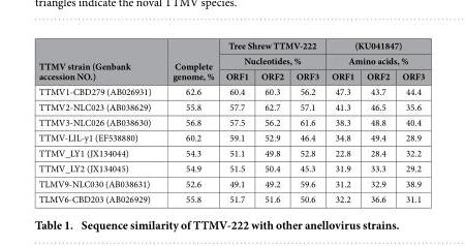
<table><thead><tr><td rowspan="3">TTMV strain (Genbank accession NO.)</td><td rowspan="3">Complete genome, %</td><td rowspan="2" colspan="3">Tree Shrew TTMV-222 Nucleotides, %</td><td rowspan="2" colspan="3">(KU041847) Amino acids, %</td></tr><tr></tr><tr><td>ORF1</td><td>ORF2</td><td>ORF3</td><td>ORF1</td><td>ORF2</td><td>ORF3</td></tr></thead><tbody><tr><td>TTMV1-CBD279 (AB026931)</td><td>62.6</td><td>60.4</td><td>60.3</td><td>56.2</td><td>47.3</td><td>43.7</td><td>44.4</td></tr><tr><td>TTMV2-NLC023 (AB038629)</td><td>55.8</td><td>57.7</td><td>62.7</td><td>57.1</td><td>41.3</td><td>46.5</td><td>35.6</td></tr><tr><td>TTMV3-NLC026 (AB038630)</td><td>56.8</td><td>57.5</td><td>56.2</td><td>61.6</td><td>38.3</td><td>48.8</td><td>40.4</td></tr><tr><td>TTMV-LIL-y1 (EF538880)</td><td>60.2</td><td>59.1</td><td>52.9</td><td>46.4</td><td>34.8</td><td>49.4</td><td>28.9</td></tr><tr><td>TTMV_LY1 (JX134044)</td><td>54.3</td><td>51.1</td><td>49.8</td><td>52.8</td><td>22.8</td><td>28.4</td><td>32.2</td></tr><tr><td>TTMV_LY2 (JX134045)</td><td>54.9</td><td>51.5</td><td>50.4</td><td>45.3</td><td>31.9</td><td>33.3</td><td>29.2</td></tr><tr><td>TLMV9-NLC030 (AB038631)</td><td>52.6</td><td>49.1</td><td>49.2</td><td>59.6</td><td>31.2</td><td>32.9</td><td>38.9</td></tr><tr><td>TLMV6-CBD203 (AB026929)</td><td>55.8</td><td>51.7</td><td>51.6</td><td>50.6</td><td>32.2</td><td>36.6</td><td>31.1</td></tr></tbody></table>